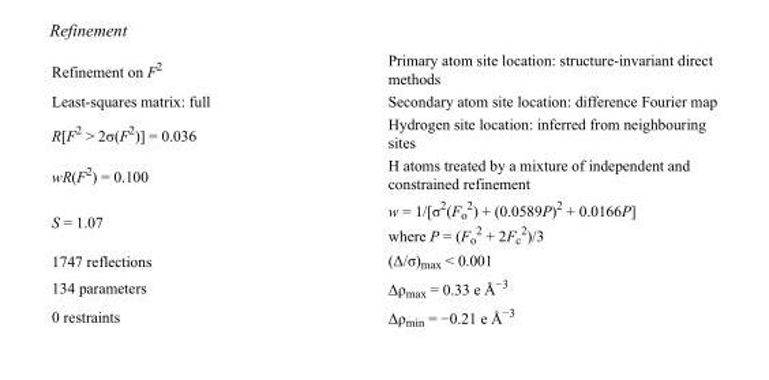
<table><tbody><tr><td>Refinement on F<sup>2</sup></td><td>Primary atom site location: structure-invariant direct methods</td></tr><tr><td>Least-squares matrix: full</td><td>Secondary atom site location: difference Fourier map</td></tr><tr><td>R[F<sup>2</sup> &gt; 2σ(F<sup>2</sup>)] = 0.036</td><td>Hydrogen site location: inferred from neighbouring sites</td></tr><tr><td>wR(F<sup>2</sup>) = 0.100</td><td>H atoms treated by a mixture of independent and constrained refinement</td></tr><tr><td>S = 1.07</td><td>w = 1/[σ<sup>2</sup>(F<sub>o</sub> <sup>2</sup>) + (0.0589P)<sup>2</sup> + 0.0166P] where P = (F<sub>o</sub> <sup>2</sup> + 2F<sub>c</sub> <sup>2</sup>)/3</td></tr><tr><td>1747 reflections</td><td>(Δ/σ)<sub>max</sub> &lt; 0.001</td></tr><tr><td>134 parameters</td><td>Δρ<sub>max</sub> = 0.33 e Å<sup>−3</sup></td></tr><tr><td>0 restraints</td><td>Δρ<sub>min</sub> = −0.21 e Å<sup>−3</sup></td></tr></tbody></table>